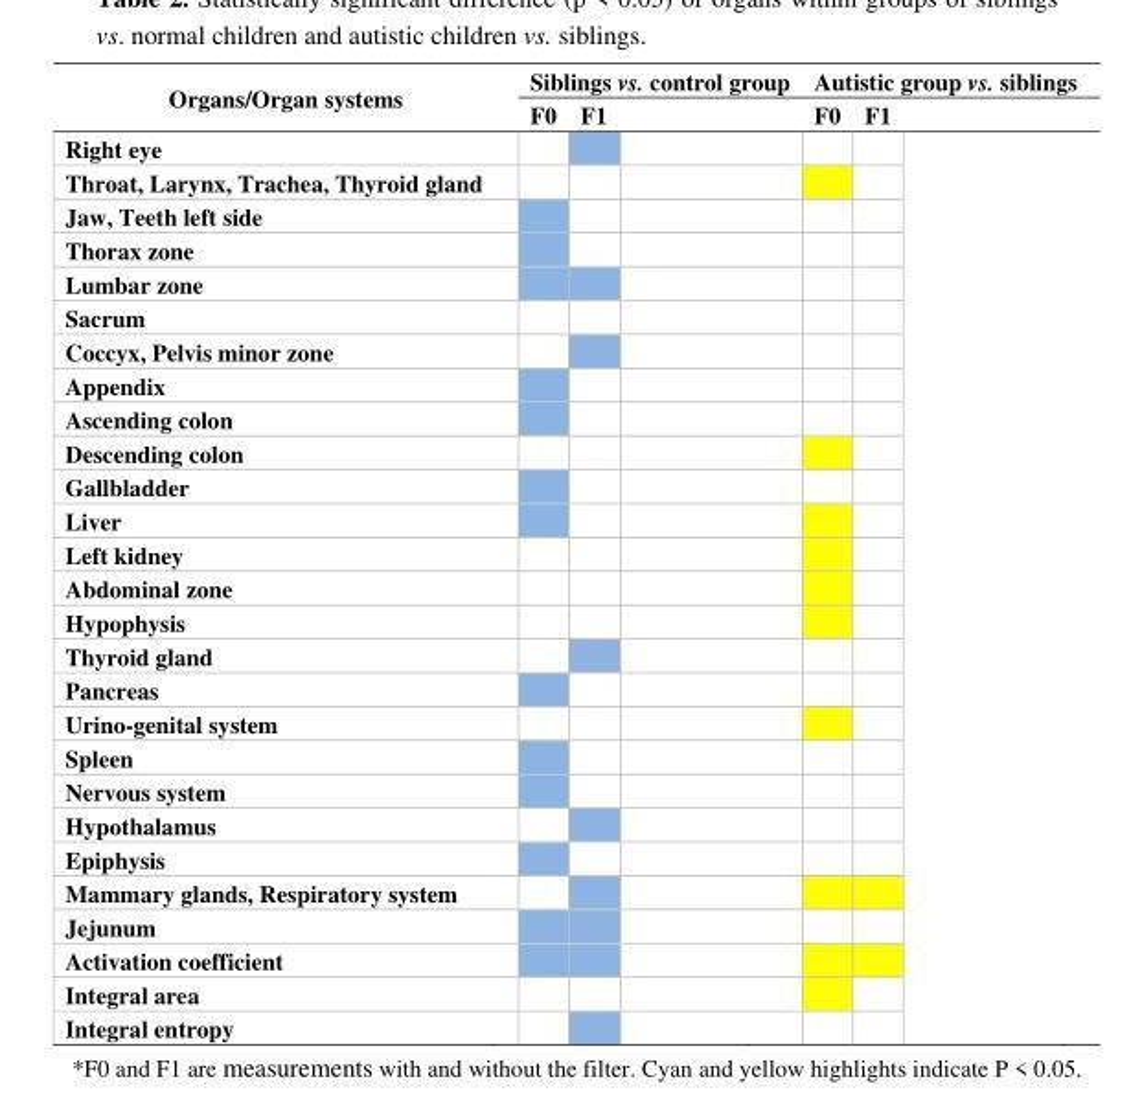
<table><thead><tr><td rowspan="2">Organs/Organ systems</td><td colspan="2">Siblings vs. control group</td><td colspan="2">Autistic group vs. siblings</td></tr><tr><td>F0</td><td>F1</td><td>F0</td><td>F1</td></tr></thead><tbody><tr><td colspan="5">Right eye</td></tr><tr><td colspan="5">Throat, Larynx, Trachea, Thyroid gland</td></tr><tr><td colspan="5">Jaw, Teeth left side</td></tr><tr><td colspan="5">Thorax zone</td></tr><tr><td colspan="5">Lumbar zone</td></tr><tr><td colspan="5">Sacrum</td></tr><tr><td colspan="5">Coccyx, Pelvis minor zone</td></tr><tr><td colspan="5">Appendix</td></tr><tr><td colspan="5">Ascending colon</td></tr><tr><td colspan="5">Descending colon</td></tr><tr><td colspan="5">Gallbladder</td></tr><tr><td colspan="5">Liver</td></tr><tr><td colspan="5">Left kidney</td></tr><tr><td colspan="5">Abdominal zone</td></tr><tr><td colspan="5">Hypophysis</td></tr><tr><td colspan="5">Thyroid gland</td></tr><tr><td colspan="5">Pancreas</td></tr><tr><td colspan="5">Urino-genital system</td></tr><tr><td colspan="5">Spleen</td></tr><tr><td colspan="5">Nervous system</td></tr><tr><td colspan="5">Hypothalamus</td></tr><tr><td colspan="5">Epiphysis</td></tr><tr><td colspan="5">Mammary glands, Respiratory system</td></tr><tr><td colspan="5">Jejunum</td></tr><tr><td colspan="5">Activation coefficient</td></tr><tr><td colspan="5">Integral area</td></tr><tr><td>Integral entropy</td><td></td><td></td><td></td><td></td></tr></tbody></table>